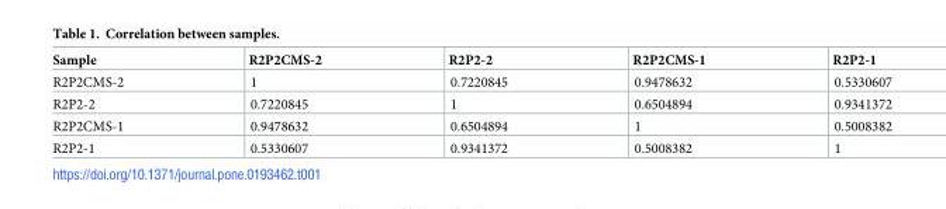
<table><thead><tr><td>Sample</td><td>R2P2CMS-2</td><td>R2P2-2</td><td>R2P2CMS-1</td><td>R2P2-1</td></tr></thead><tbody><tr><td>R2P2CMS-2</td><td>1</td><td>0.7220845</td><td>0.9478632</td><td>0.5330607</td></tr><tr><td>R2P2-2</td><td>0.7220845</td><td>1</td><td>0.6504894</td><td>0.9341372</td></tr><tr><td>R2P2CMS-1</td><td>0.9478632</td><td>0.6504894</td><td>1</td><td>0.5008382</td></tr><tr><td>R2P2-1</td><td>0.5330607</td><td>0.9341372</td><td>0.5008382</td><td>1</td></tr></tbody></table>